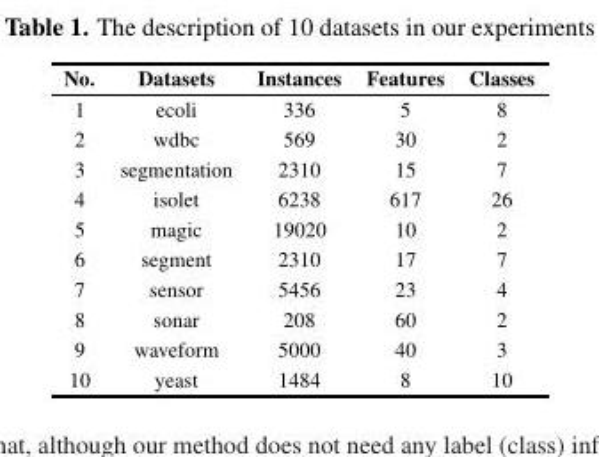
<table><thead><tr><td>No.</td><td>Datasets</td><td>Instances</td><td>Features</td><td>Classes</td></tr></thead><tbody><tr><td>1</td><td>ecoli</td><td>336</td><td>5</td><td>8</td></tr><tr><td>2</td><td>wdbc</td><td>569</td><td>30</td><td>2</td></tr><tr><td>3</td><td>segmentation</td><td>2310</td><td>15</td><td>7</td></tr><tr><td>4</td><td>isolet</td><td>6238</td><td>617</td><td>26</td></tr><tr><td>5</td><td>magic</td><td>19020</td><td>10</td><td>2</td></tr><tr><td>6</td><td>segment</td><td>2310</td><td>17</td><td>7</td></tr><tr><td>7</td><td>sensor</td><td>5456</td><td>23</td><td>4</td></tr><tr><td>8</td><td>sonar</td><td>208</td><td>60</td><td>2</td></tr><tr><td>9</td><td>waveform</td><td>5000</td><td>40</td><td>3</td></tr><tr><td>10</td><td>yeast</td><td>1484</td><td>8</td><td>10</td></tr></tbody></table>